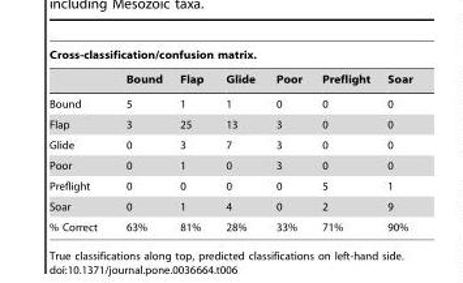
<table><thead><tr><td colspan="7">Cross-classification/confusion matrix.</td></tr><tr><td></td><td>Bound</td><td>Flap</td><td>Glide</td><td>Poor</td><td>Preflight</td><td>Soar</td></tr></thead><tbody><tr><td>Bound</td><td>5</td><td>1</td><td>1</td><td>0</td><td>0</td><td>0</td></tr><tr><td>Flap</td><td>3</td><td>25</td><td>13</td><td>3</td><td>0</td><td>0</td></tr><tr><td>Glide</td><td>0</td><td>3</td><td>7</td><td>3</td><td>0</td><td>0</td></tr><tr><td>Poor</td><td>0</td><td>1</td><td>0</td><td>3</td><td>0</td><td>0</td></tr><tr><td>Preflight</td><td>0</td><td>0</td><td>0</td><td>0</td><td>5</td><td>1</td></tr><tr><td>Soar</td><td>0</td><td>1</td><td>4</td><td>0</td><td>2</td><td>9</td></tr><tr><td>% Correct</td><td>63%</td><td>81%</td><td>28%</td><td>33%</td><td>71%</td><td>90%</td></tr></tbody></table>